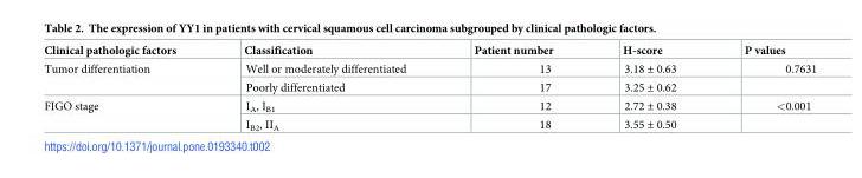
<table><thead><tr><td>Clinical pathologic factors</td><td>Classification</td><td>Patient number</td><td>H-score</td><td>P values</td></tr></thead><tbody><tr><td rowspan="2">Tumor differentiation</td><td>Well or moderately differentiated</td><td>13</td><td>3.18 ± 0.63</td><td>0.7631</td></tr><tr><td>Poorly differentiated</td><td>17</td><td>3.25 ± 0.62</td><td></td></tr><tr><td rowspan="2">FIGO stage</td><td>I<sub>A</sub>, I<sub>B1</sub></td><td>12</td><td>2.72 ± 0.38</td><td>&lt;0.001</td></tr><tr><td>I<sub>B2</sub>, II<sub>A</sub></td><td>18</td><td>3.55 ± 0.50</td><td></td></tr></tbody></table>